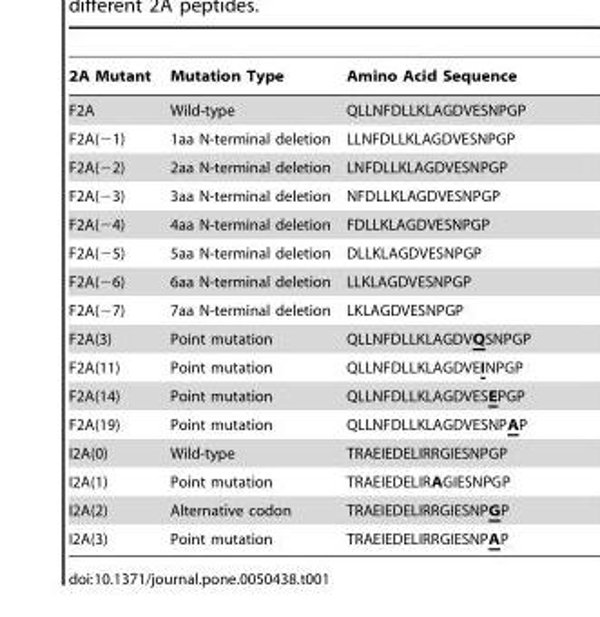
<table><thead><tr><td>2A Mutant</td><td>Mutation Type</td><td>Amino Acid Sequence</td></tr></thead><tbody><tr><td>F2A</td><td>Wild-type</td><td>QLLNFDLLKLAGDVESNPGP</td></tr><tr><td>F2A(−1)</td><td>1aa N-terminal deletion</td><td>LLNFDLLKLAGDVESNPGP</td></tr><tr><td>F2A(−2)</td><td>2aa N-terminal deletion</td><td>LNFDLLKLAGDVESNPGP</td></tr><tr><td>F2A(−3)</td><td>3aa N-terminal deletion</td><td>NFDLLKLAGDVESNPGP</td></tr><tr><td>F2A(−4)</td><td>4aa N-terminal deletion</td><td>FDLLKLAGDVESNPGP</td></tr><tr><td>F2A(−5)</td><td>5aa N-terminal deletion</td><td>DLLKLAGDVESNPGP</td></tr><tr><td>F2A(−6)</td><td>6aa N-terminal deletion</td><td>LLKLAGDVESNPGP</td></tr><tr><td>F2A(−7)</td><td>7aa N-terminal deletion</td><td>LKLAGDVESNPGP</td></tr><tr><td>F2A(3)</td><td>Point mutation</td><td>QLLNFDLLKLAGDVQSNPGP</td></tr><tr><td>F2A(11)</td><td>Point mutation</td><td>QLLNFDLLKLAGDVEINPGP</td></tr><tr><td>F2A(14)</td><td>Point mutation</td><td>QLLNFDLLKLAGDVESEPGP</td></tr><tr><td>F2A(19)</td><td>Point mutation</td><td>QLLNFDLLKLAGDVESNPAP</td></tr><tr><td>I2A(0)</td><td>Wild-type</td><td>TRAEIEDELIRRGIESNPGP</td></tr><tr><td>I2A(1)</td><td>Point mutation</td><td>TRAEIEDELIRAGIESNPGP</td></tr><tr><td>I2A(2)</td><td>Alternative codon</td><td>TRAEIEDELIRRGIESNPGP</td></tr><tr><td>I2A(3)</td><td>Point mutation</td><td>TRAEIEDELIRRGIESNPAP</td></tr></tbody></table>